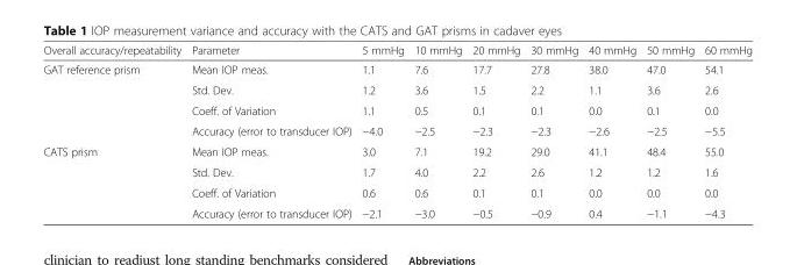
<table><thead><tr><td>Overall accuracy/repeatability</td><td>Parameter</td><td>5 mmHg</td><td>10 mmHg</td><td>20 mmHg</td><td>30 mmHg</td><td>40 mmHg</td><td>50 mmHg</td><td>60 mmHg</td></tr></thead><tbody><tr><td rowspan="4">GAT reference prism</td><td>Mean IOP meas.</td><td>1.1</td><td>7.6</td><td>17.7</td><td>27.8</td><td>38.0</td><td>47.0</td><td>54.1</td></tr><tr><td>Std. Dev.</td><td>1.2</td><td>3.6</td><td>1.5</td><td>2.2</td><td>1.1</td><td>3.6</td><td>2.6</td></tr><tr><td>Coeff. of Variation</td><td>1.1</td><td>0.5</td><td>0.1</td><td>0.1</td><td>0.0</td><td>0.1</td><td>0.0</td></tr><tr><td>Accuracy (error to transducer IOP)</td><td>−4.0</td><td>−2.5</td><td>−2.3</td><td>−2.3</td><td>−2.6</td><td>−2.5</td><td>−5.5</td></tr><tr><td rowspan="4">CATS prism</td><td>Mean IOP meas.</td><td>3.0</td><td>7.1</td><td>19.2</td><td>29.0</td><td>41.1</td><td>48.4</td><td>55.0</td></tr><tr><td>Std. Dev.</td><td>1.7</td><td>4.0</td><td>2.2</td><td>2.6</td><td>1.2</td><td>1.2</td><td>1.6</td></tr><tr><td>Coeff. of Variation</td><td>0.6</td><td>0.6</td><td>0.1</td><td>0.1</td><td>0.0</td><td>0.0</td><td>0.0</td></tr><tr><td>Accuracy (error to transducer IOP)</td><td>−2.1</td><td>−3.0</td><td>−0.5</td><td>−0.9</td><td>0.4</td><td>−1.1</td><td>−4.3</td></tr></tbody></table>